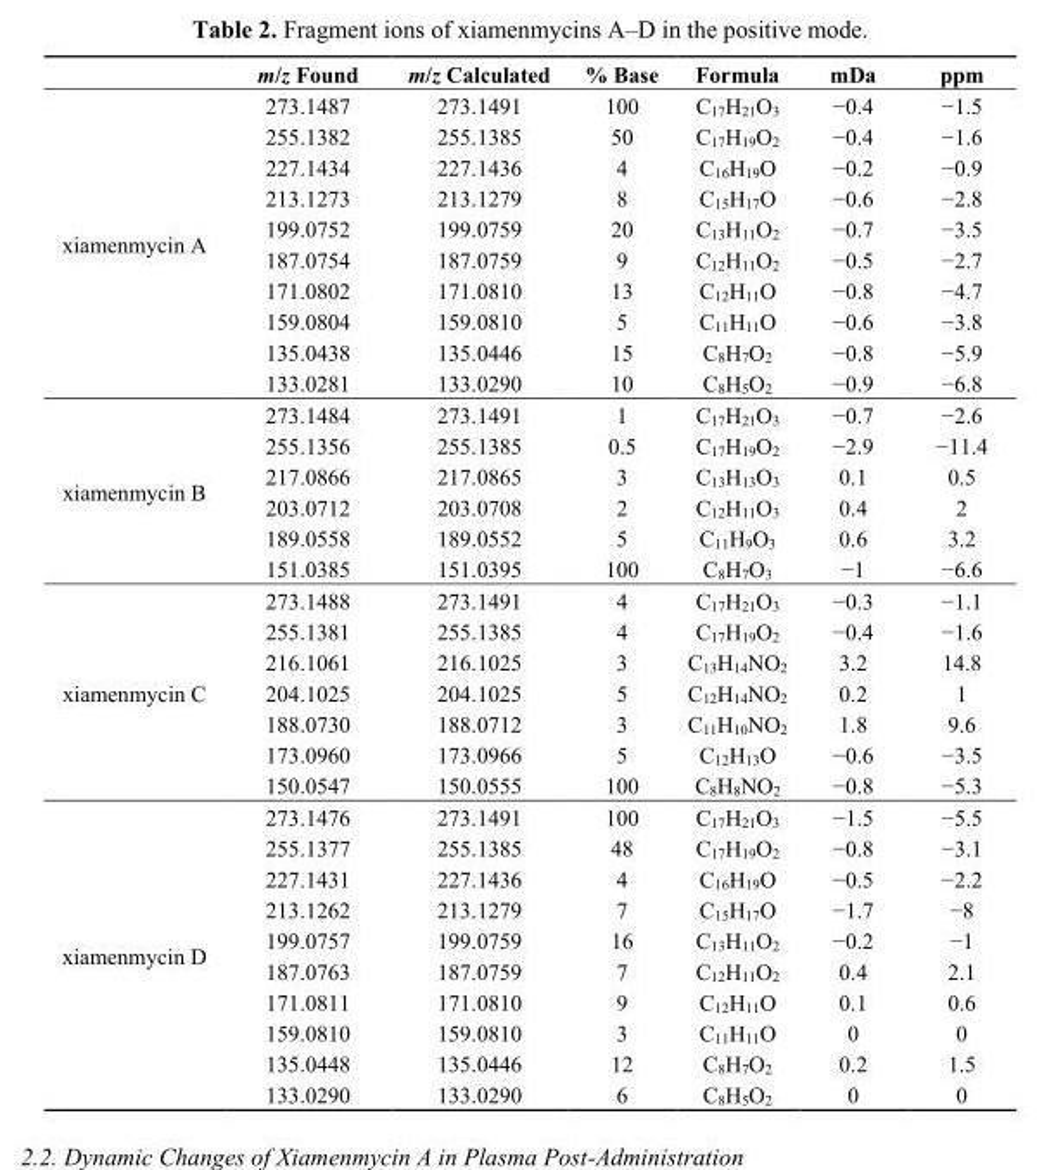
<table><thead><tr><td></td><td>m/z Found</td><td>m/z Calculated</td><td>% Base</td><td>Formula</td><td>mDa</td><td>ppm</td></tr></thead><tbody><tr><td rowspan="10">xiamenmycin A</td><td>273.1487</td><td>273.1491</td><td>100</td><td>C<sub>17</sub>H<sub>21</sub>O<sub>3</sub></td><td>−0.4</td><td>−1.5</td></tr><tr><td>255.1382</td><td>255.1385</td><td>50</td><td>C<sub>17</sub>H<sub>19</sub>O<sub>2</sub></td><td>−0.4</td><td>−1.6</td></tr><tr><td>227.1434</td><td>227.1436</td><td>4</td><td>C<sub>16</sub>H<sub>19</sub>O</td><td>−0.2</td><td>−0.9</td></tr><tr><td>213.1273</td><td>213.1279</td><td>8</td><td>C<sub>15</sub>H<sub>17</sub>O</td><td>−0.6</td><td>−2.8</td></tr><tr><td>199.0752</td><td>199.0759</td><td>20</td><td>C<sub>13</sub>H<sub>11</sub>O<sub>2</sub></td><td>−0.7</td><td>−3.5</td></tr><tr><td>187.0754</td><td>187.0759</td><td>9</td><td>C<sub>12</sub>H<sub>11</sub>O<sub>2</sub></td><td>−0.5</td><td>−2.7</td></tr><tr><td>171.0802</td><td>171.0810</td><td>13</td><td>C<sub>12</sub>H<sub>11</sub>O</td><td>−0.8</td><td>−4.7</td></tr><tr><td>159.0804</td><td>159.0810</td><td>5</td><td>C<sub>11</sub>H<sub>11</sub>O</td><td>−0.6</td><td>−3.8</td></tr><tr><td>135.0438</td><td>135.0446</td><td>15</td><td>C<sub>8</sub>H<sub>7</sub>O<sub>2</sub></td><td>−0.8</td><td>−5.9</td></tr><tr><td>133.0281</td><td>133.0290</td><td>10</td><td>C<sub>8</sub>H<sub>5</sub>O<sub>2</sub></td><td>−0.9</td><td>−6.8</td></tr><tr><td rowspan="6">xiamenmycin B</td><td>273.1484</td><td>273.1491</td><td>1</td><td>C<sub>17</sub>H<sub>21</sub>O<sub>3</sub></td><td>−0.7</td><td>−2.6</td></tr><tr><td>255.1356</td><td>255.1385</td><td>0.5</td><td>C<sub>17</sub>H<sub>19</sub>O<sub>2</sub></td><td>−2.9</td><td>−11.4</td></tr><tr><td>217.0866</td><td>217.0865</td><td>3</td><td>C<sub>13</sub>H<sub>13</sub>O<sub>3</sub></td><td>0.1</td><td>0.5</td></tr><tr><td>203.0712</td><td>203.0708</td><td>2</td><td>C<sub>12</sub>H<sub>11</sub>O<sub>3</sub></td><td>0.4</td><td>2</td></tr><tr><td>189.0558</td><td>189.0552</td><td>5</td><td>C<sub>11</sub>H<sub>9</sub>O<sub>3</sub></td><td>0.6</td><td>3.2</td></tr><tr><td>151.0385</td><td>151.0395</td><td>100</td><td>C<sub>8</sub>H<sub>7</sub>O<sub>3</sub></td><td>−1</td><td>−6.6</td></tr><tr><td rowspan="7">xiamenmycin C</td><td>273.1488</td><td>273.1491</td><td>4</td><td>C<sub>17</sub>H<sub>21</sub>O<sub>3</sub></td><td>−0.3</td><td>−1.1</td></tr><tr><td>255.1381</td><td>255.1385</td><td>4</td><td>C<sub>17</sub>H<sub>19</sub>O<sub>2</sub></td><td>−0.4</td><td>−1.6</td></tr><tr><td>216.1061</td><td>216.1025</td><td>3</td><td>C<sub>13</sub>H<sub>14</sub>NO<sub>2</sub></td><td>3.2</td><td>14.8</td></tr><tr><td>204.1025</td><td>204.1025</td><td>5</td><td>C<sub>12</sub>H<sub>14</sub>NO<sub>2</sub></td><td>0.2</td><td>1</td></tr><tr><td>188.0730</td><td>188.0712</td><td>3</td><td>C<sub>11</sub>H<sub>10</sub>NO<sub>2</sub></td><td>1.8</td><td>9.6</td></tr><tr><td>173.0960</td><td>173.0966</td><td>5</td><td>C<sub>12</sub>H<sub>13</sub>O</td><td>−0.6</td><td>−3.5</td></tr><tr><td>150.0547</td><td>150.0555</td><td>100</td><td>C<sub>8</sub>H<sub>8</sub>NO<sub>2</sub></td><td>−0.8</td><td>−5.3</td></tr><tr><td rowspan="10">xiamenmycin D</td><td>273.1476</td><td>273.1491</td><td>100</td><td>C<sub>17</sub>H<sub>21</sub>O<sub>3</sub></td><td>−1.5</td><td>−5.5</td></tr><tr><td>255.1377</td><td>255.1385</td><td>48</td><td>C<sub>17</sub>H<sub>19</sub>O<sub>2</sub></td><td>−0.8</td><td>−3.1</td></tr><tr><td>227.1431</td><td>227.1436</td><td>4</td><td>C<sub>16</sub>H<sub>19</sub>O</td><td>−0.5</td><td>−2.2</td></tr><tr><td>213.1262</td><td>213.1279</td><td>7</td><td>C<sub>15</sub>H<sub>17</sub>O</td><td>−1.7</td><td>−8</td></tr><tr><td>199.0757</td><td>199.0759</td><td>16</td><td>C<sub>13</sub>H<sub>11</sub>O<sub>2</sub></td><td>−0.2</td><td>−1</td></tr><tr><td>187.0763</td><td>187.0759</td><td>7</td><td>C<sub>12</sub>H<sub>11</sub>O<sub>2</sub></td><td>0.4</td><td>2.1</td></tr><tr><td>171.0811</td><td>171.0810</td><td>9</td><td>C<sub>12</sub>H<sub>11</sub>O</td><td>0.1</td><td>0.6</td></tr><tr><td>159.0810</td><td>159.0810</td><td>3</td><td>C<sub>11</sub>H<sub>11</sub>O</td><td>0</td><td>0</td></tr><tr><td>135.0448</td><td>135.0446</td><td>12</td><td>C<sub>8</sub>H<sub>7</sub>O<sub>2</sub></td><td>0.2</td><td>1.5</td></tr><tr><td>133.0290</td><td>133.0290</td><td>6</td><td>C<sub>8</sub>H<sub>5</sub>O<sub>2</sub></td><td>0</td><td>0</td></tr></tbody></table>